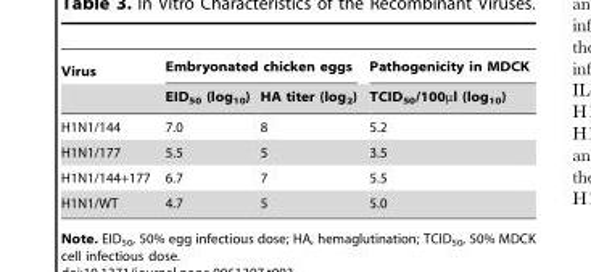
<table><thead><tr><td rowspan="2">Virus</td><td colspan="2">Embryonated chicken eggs</td><td rowspan="2">Pathogenicity in MDCK TCID<sub>50</sub>/100µl (log<sub>10</sub>)</td></tr><tr><td>EID<sub>50</sub> (log<sub>10</sub>)</td><td>HA titer (log<sub>2</sub>)</td></tr></thead><tbody><tr><td>H1N1/144</td><td>7.0</td><td>8</td><td>5.2</td></tr><tr><td>H1N1/177</td><td>5.5</td><td>5</td><td>3.5</td></tr><tr><td>H1N1/144+177</td><td>6.7</td><td>7</td><td>5.5</td></tr><tr><td>H1N1/WT</td><td>4.7</td><td>5</td><td>5.0</td></tr></tbody></table>